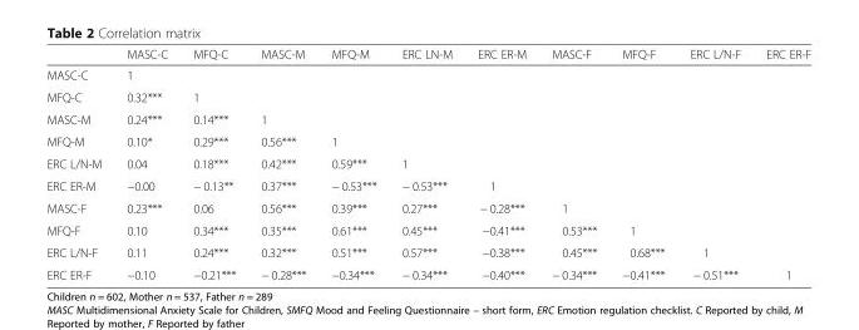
<table><thead><tr><td></td><td>MASC-C</td><td>MFQ-C</td><td>MASC-M</td><td>MFQ-M</td><td>ERC LN-M</td><td>ERC ER-M</td><td>MASC-F</td><td>MFQ-F</td><td>ERC L/N-F</td><td>ERC ER-F</td></tr></thead><tbody><tr><td>MASC-C</td><td>1</td><td></td><td></td><td></td><td></td><td></td><td></td><td></td><td></td><td></td></tr><tr><td>MFQ-C</td><td>0.32***</td><td>1</td><td></td><td></td><td></td><td></td><td></td><td></td><td></td><td></td></tr><tr><td>MASC-M</td><td>0.24***</td><td>0.14***</td><td>1</td><td></td><td></td><td></td><td></td><td></td><td></td><td></td></tr><tr><td>MFQ-M</td><td>0.10*</td><td>0.29***</td><td>0.56***</td><td>1</td><td></td><td></td><td></td><td></td><td></td><td></td></tr><tr><td>ERC L/N-M</td><td>0.04</td><td>0.18***</td><td>0.42***</td><td>0.59***</td><td>1</td><td></td><td></td><td></td><td></td><td></td></tr><tr><td>ERC ER-M</td><td>−0.00</td><td>− 0.13**</td><td>0.37***</td><td>− 0.53***</td><td>− 0.53***</td><td>1</td><td></td><td></td><td></td><td></td></tr><tr><td>MASC-F</td><td>0.23***</td><td>0.06</td><td>0.56***</td><td>0.39***</td><td>0.27***</td><td>− 0.28***</td><td>1</td><td></td><td></td><td></td></tr><tr><td>MFQ-F</td><td>0.10</td><td>0.34***</td><td>0.35***</td><td>0.61***</td><td>0.45***</td><td>−0.41***</td><td>0.53***</td><td>1</td><td></td><td></td></tr><tr><td>ERC L/N-F</td><td>0.11</td><td>0.24***</td><td>0.32***</td><td>0.51***</td><td>0.57***</td><td>−0.38***</td><td>0.45***</td><td>0.68***</td><td>1</td><td></td></tr><tr><td>ERC ER-F</td><td>−0.10</td><td>−0.21***</td><td>− 0.28***</td><td>−0.34***</td><td>− 0.34***</td><td>−0.40***</td><td>− 0.34***</td><td>−0.41***</td><td>− 0.51***</td><td>1</td></tr></tbody></table>